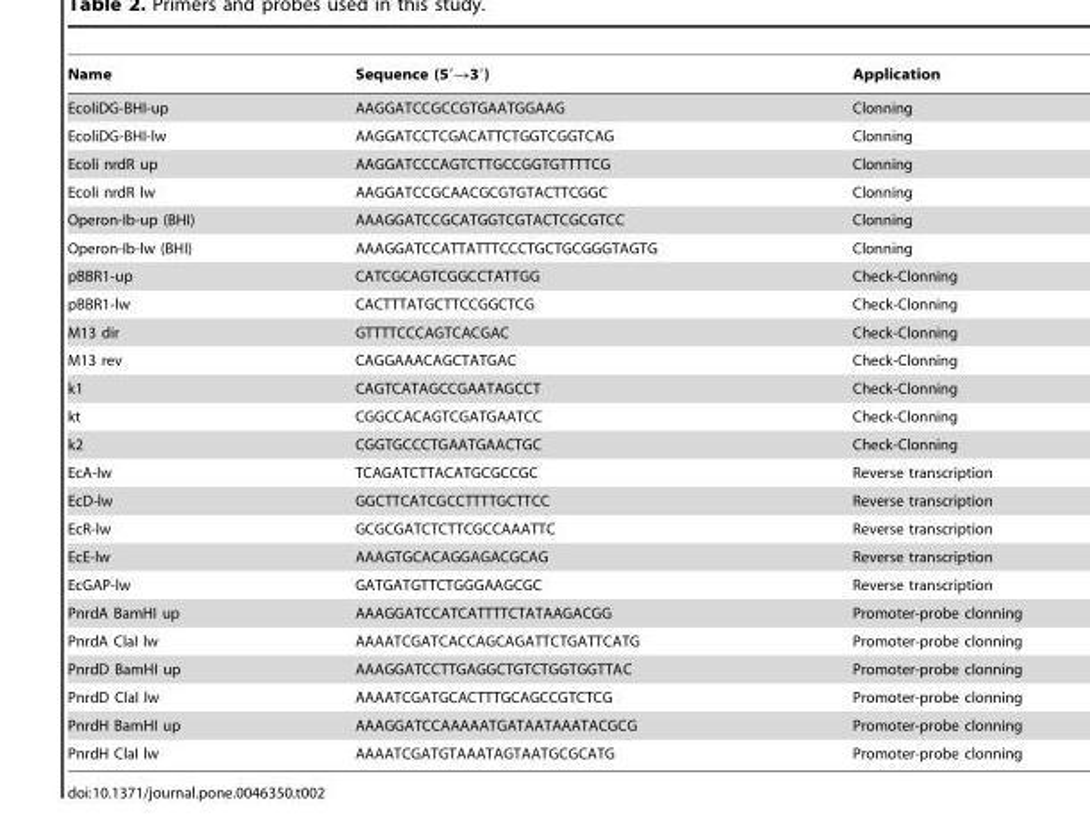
<table><thead><tr><td>Name</td><td>Sequence (5′→3′)</td><td>Application</td></tr></thead><tbody><tr><td>EcoliDG-BHI-up</td><td>AAGGATCCGCCGTGAATGGAAG</td><td>Clonning</td></tr><tr><td>EcoliDG-BHI-lw</td><td>AAGGATCCTCGACATTCTGGTCGGTCAG</td><td>Clonning</td></tr><tr><td>Ecoli nrdR up</td><td>AAGGATCCCAGTCTTGCCGGTGTTTTCG</td><td>Clonning</td></tr><tr><td>Ecoli nrdR lw</td><td>AAGGATCCGCAACGCGTGTACTTCGGC</td><td>Clonning</td></tr><tr><td>Operon-Ib-up (BHI)</td><td>AAAGGATCCGCATGGTCGTACTCGCGTCC</td><td>Clonning</td></tr><tr><td>Operon-Ib-lw (BHI)</td><td>AAAGGATCCATTATTTCCCTGCTGCGGGTAGTG</td><td>Clonning</td></tr><tr><td>pBBR1-up</td><td>CATCGCAGTCGGCCTATTGG</td><td>Check-Clonning</td></tr><tr><td>pBBR1-lw</td><td>CACTTTATGCTTCCGGCTCG</td><td>Check-Clonning</td></tr><tr><td>M13 dir</td><td>GTTTTCCCAGTCACGAC</td><td>Check-Clonning</td></tr><tr><td>M13 rev</td><td>CAGGAAACAGCTATGAC</td><td>Check-Clonning</td></tr><tr><td>k1</td><td>CAGTCATAGCCGAATAGCCT</td><td>Check-Clonning</td></tr><tr><td>kt</td><td>CGGCCACAGTCGATGAATCC</td><td>Check-Clonning</td></tr><tr><td>k2</td><td>CGGTGCCCTGAATGAACTGC</td><td>Check-Clonning</td></tr><tr><td>EcA-lw</td><td>TCAGATCTTACATGCGCCGC</td><td>Reverse transcription</td></tr><tr><td>EcD-lw</td><td>GGCTTCATCGCCTTTTGCTTCC</td><td>Reverse transcription</td></tr><tr><td>EcR-lw</td><td>GCGCGATCTCTTCGCCAAATTC</td><td>Reverse transcription</td></tr><tr><td>EcE-lw</td><td>AAAGTGCACAGGAGACGCAG</td><td>Reverse transcription</td></tr><tr><td>EcGAP-lw</td><td>GATGATGTTCTGGGAAGCGC</td><td>Reverse transcription</td></tr><tr><td>PnrdA BamHI up</td><td>AAAGGATCCATCATTTTCTATAAGACGG</td><td>Promoter-probe clonning</td></tr><tr><td>PnrdA ClaI lw</td><td>AAAATCGATCACCAGCAGATTCTGATTCATG</td><td>Promoter-probe clonning</td></tr><tr><td>PnrdD BamHI up</td><td>AAAGGATCCTTGAGGCTGTCTGGTGGTTAC</td><td>Promoter-probe clonning</td></tr><tr><td>PnrdD ClaI lw</td><td>AAAATCGATGCACTTTGCAGCCGTCTCG</td><td>Promoter-probe clonning</td></tr><tr><td>PnrdH BamHI up</td><td>AAAGGATCCAAAAATGATAATAAATACGCG</td><td>Promoter-probe clonning</td></tr><tr><td>PnrdH ClaI lw</td><td>AAAATCGATGTAAATAGTAATGCGCATG</td><td>Promoter-probe clonning</td></tr></tbody></table>